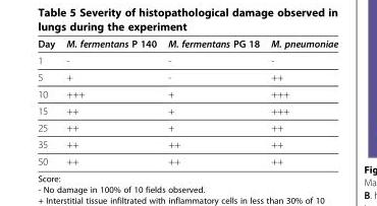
<table><thead><tr><td>Day</td><td>M. fermentans P 140</td><td>M. fermentans PG 18</td><td>M. pneumoniae</td></tr></thead><tbody><tr><td>1</td><td>-</td><td>-</td><td>-</td></tr><tr><td>5</td><td>+</td><td>-</td><td>++</td></tr><tr><td>10</td><td>+++</td><td>+</td><td>+++</td></tr><tr><td>15</td><td>++</td><td>+</td><td>+++</td></tr><tr><td>25</td><td>++</td><td>+</td><td>++</td></tr><tr><td>35</td><td>++</td><td>++</td><td>++</td></tr><tr><td>50</td><td>++</td><td>++</td><td>++</td></tr></tbody></table>